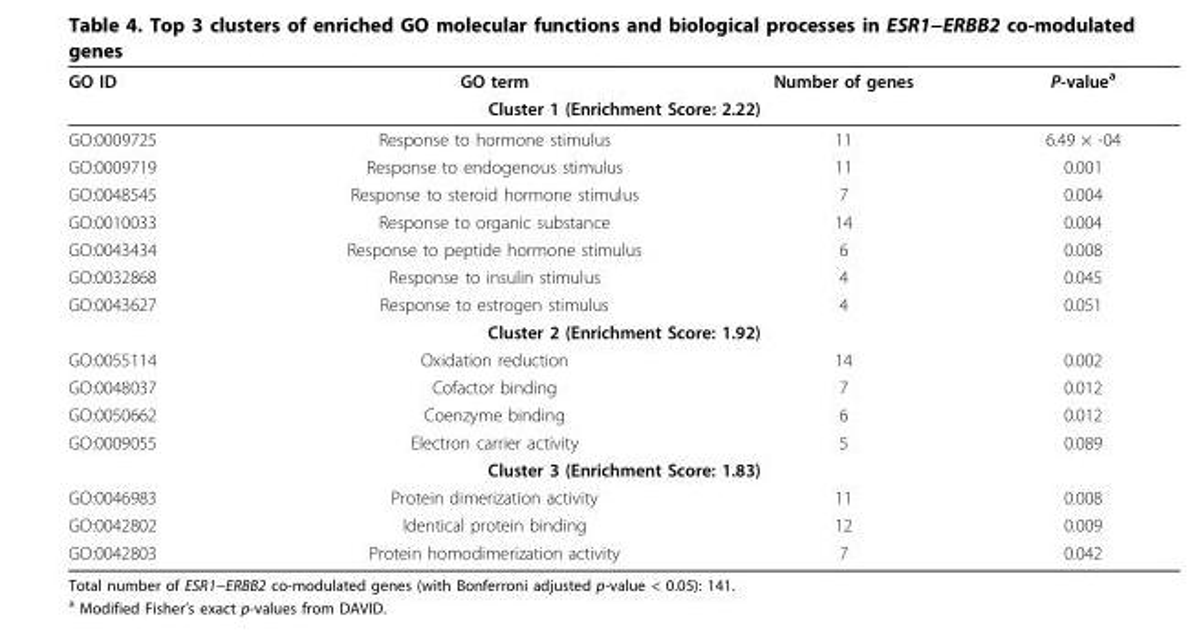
<table><tbody><tr><td>GO ID</td><td>GO term</td><td>Number of genes</td><td>P-value<sup>a</sup></td></tr><tr><td colspan="4">Cluster 1 (Enrichment Score: 2.22)</td></tr><tr><td>GO:0009725</td><td>Response to hormone stimulus</td><td>11</td><td>6.49 × -04</td></tr><tr><td>GO:0009719</td><td>Response to endogenous stimulus</td><td>11</td><td>0.001</td></tr><tr><td>GO:0048545</td><td>Response to steroid hormone stimulus</td><td>7</td><td>0.004</td></tr><tr><td>GO:0010033</td><td>Response to organic substance</td><td>14</td><td>0.004</td></tr><tr><td>GO:0043434</td><td>Response to peptide hormone stimulus</td><td>6</td><td>0.008</td></tr><tr><td>GO:0032868</td><td>Response to insulin stimulus</td><td>4</td><td>0.045</td></tr><tr><td>GO:0043627</td><td>Response to estrogen stimulus</td><td>4</td><td>0.051</td></tr><tr><td colspan="4">Cluster 2 (Enrichment Score: 1.92)</td></tr><tr><td>GO:0055114</td><td>Oxidation reduction</td><td>14</td><td>0.002</td></tr><tr><td>GO:0048037</td><td>Cofactor binding</td><td>7</td><td>0.012</td></tr><tr><td>GO:0050662</td><td>Coenzyme binding</td><td>6</td><td>0.012</td></tr><tr><td>GO:0009055</td><td>Electron carrier activity</td><td>5</td><td>0.089</td></tr><tr><td colspan="4">Cluster 3 (Enrichment Score: 1.83)</td></tr><tr><td>GO:0046983</td><td>Protein dimerization activity</td><td>11</td><td>0.008</td></tr><tr><td>GO:0042802</td><td>Identical protein binding</td><td>12</td><td>0.009</td></tr><tr><td>GO:0042803</td><td>Protein homodimerization activity</td><td>7</td><td>0.042</td></tr></tbody></table>